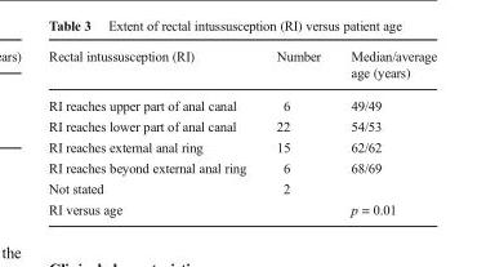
<table><thead><tr><td>Rectal intussusception (RI)</td><td>Number</td><td>Median/average age (years)</td></tr></thead><tbody><tr><td>RI reaches upper part of anal canal</td><td>6</td><td>49/49</td></tr><tr><td>RI reaches lower part of anal canal</td><td>22</td><td>54/53</td></tr><tr><td>RI reaches external anal ring</td><td>15</td><td>62/62</td></tr><tr><td>RI reaches beyond external anal ring</td><td>6</td><td>68/69</td></tr><tr><td>Not stated</td><td>2</td><td></td></tr><tr><td colspan="2">RI versus age</td><td>p = 0.01</td></tr></tbody></table>